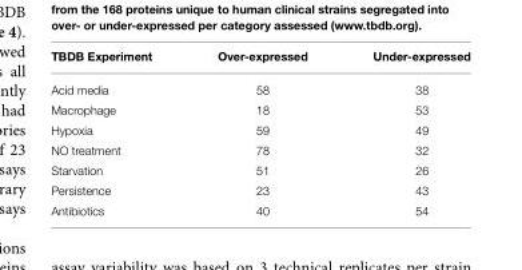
<table><thead><tr><td>TBDB Experiment</td><td>Over-expressed</td><td>Under-expressed</td></tr></thead><tbody><tr><td>Acid media</td><td>58</td><td>38</td></tr><tr><td>Macrophage</td><td>18</td><td>53</td></tr><tr><td>Hypoxia</td><td>59</td><td>49</td></tr><tr><td>NO treatment</td><td>78</td><td>32</td></tr><tr><td>Starvation</td><td>51</td><td>26</td></tr><tr><td>Persistence</td><td>23</td><td>43</td></tr><tr><td>Antibiotics</td><td>40</td><td>54</td></tr></tbody></table>